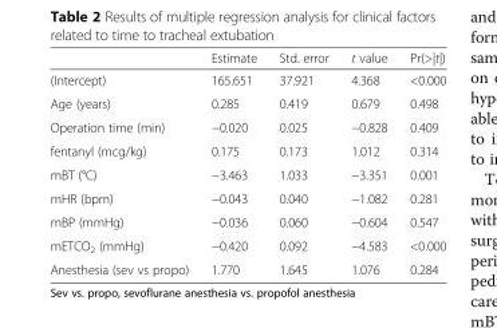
<table><thead><tr><td></td><td>Estimate</td><td>Std. error</td><td>t value</td><td>Pr(&gt;|t|)</td></tr></thead><tbody><tr><td>(Intercept)</td><td>165.651</td><td>37.921</td><td>4.368</td><td>&lt;0.000</td></tr><tr><td>Age (years)</td><td>0.285</td><td>0.419</td><td>0.679</td><td>0.498</td></tr><tr><td>Operation time (min)</td><td>−0.020</td><td>0.025</td><td>−0.828</td><td>0.409</td></tr><tr><td>fentanyl (mcg/kg)</td><td>0.175</td><td>0.173</td><td>1.012</td><td>0.314</td></tr><tr><td>mBT (°C)</td><td>−3.463</td><td>1.033</td><td>−3.351</td><td>0.001</td></tr><tr><td>mHR (bpm)</td><td>−0.043</td><td>0.040</td><td>−1.082</td><td>0.281</td></tr><tr><td>mBP (mmHg)</td><td>−0.036</td><td>0.060</td><td>−0.604</td><td>0.547</td></tr><tr><td>mETCO<sub>2</sub> (mmHg)</td><td>−0.420</td><td>0.092</td><td>−4.583</td><td>&lt;0.000</td></tr><tr><td>Anesthesia (sev vs propo)</td><td>1.770</td><td>1.645</td><td>1.076</td><td>0.284</td></tr></tbody></table>